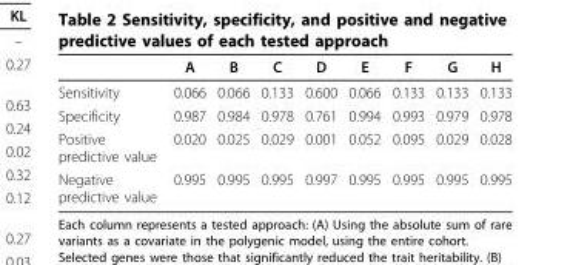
<table><thead><tr><td></td><td>A</td><td>B</td><td>C</td><td>D</td><td>E</td><td>F</td><td>G</td><td>H</td></tr></thead><tbody><tr><td>Sensitivity</td><td>0.066</td><td>0.066</td><td>0.133</td><td>0.600</td><td>0.066</td><td>0.133</td><td>0.133</td><td>0.133</td></tr><tr><td>Specificity</td><td>0.987</td><td>0.984</td><td>0.978</td><td>0.761</td><td>0.994</td><td>0.993</td><td>0.979</td><td>0.978</td></tr><tr><td>Positive predictive value</td><td>0.020</td><td>0.025</td><td>0.029</td><td>0.001</td><td>0.052</td><td>0.095</td><td>0.029</td><td>0.028</td></tr><tr><td>Negative predictive value</td><td>0.995</td><td>0.995</td><td>0.995</td><td>0.997</td><td>0.995</td><td>0.995</td><td>0.995</td><td>0.995</td></tr></tbody></table>